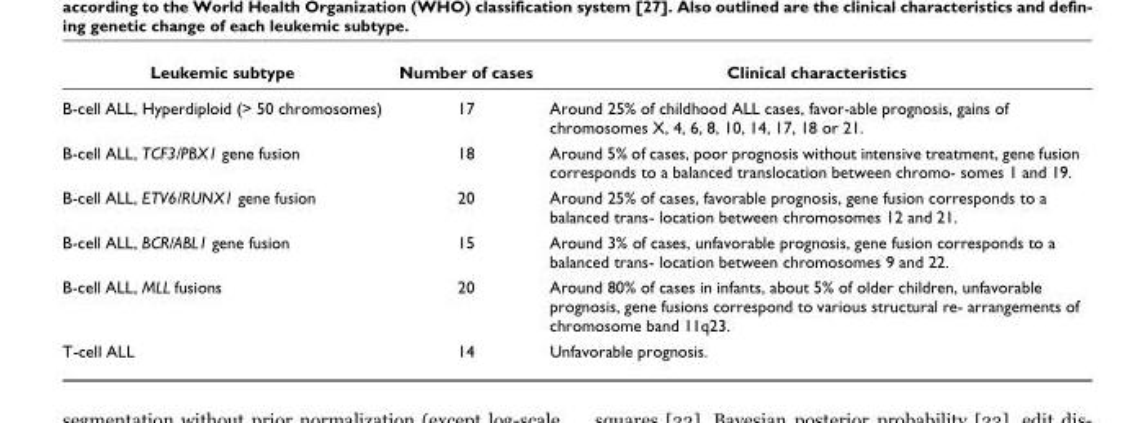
<table><thead><tr><td>Leukemic subtype</td><td>Number of cases</td><td>Clinical characteristics</td></tr></thead><tbody><tr><td>B-cell ALL, Hyperdiploid (&gt; 50 chromosomes)</td><td>17</td><td>Around 25% of childhood ALL cases, favor-able prognosis, gains of chromosomes X, 4, 6, 8, 10, 14, 17, 18 or 21.</td></tr><tr><td>B-cell ALL, TCF3/PBX1 gene fusion</td><td>18</td><td>Around 5% of cases, poor prognosis without intensive treatment, gene fusion corresponds to a balanced translocation between chromo- somes 1 and 19.</td></tr><tr><td>B-cell ALL, ETV6/RUNX1 gene fusion</td><td>20</td><td>Around 25% of cases, favorable prognosis, gene fusion corresponds to a balanced trans- location between chromosomes 12 and 21.</td></tr><tr><td>B-cell ALL, BCR/ABL1 gene fusion</td><td>15</td><td>Around 3% of cases, unfavorable prognosis, gene fusion corresponds to a balanced trans- location between chromosomes 9 and 22.</td></tr><tr><td>B-cell ALL, MLL fusions</td><td>20</td><td>Around 80% of cases in infants, about 5% of older children, unfavorable prognosis, gene fusions correspond to various structural re- arrangements of chromosome band 11q23.</td></tr><tr><td>T-cell ALL</td><td>14</td><td>Unfavorable prognosis.</td></tr></tbody></table>